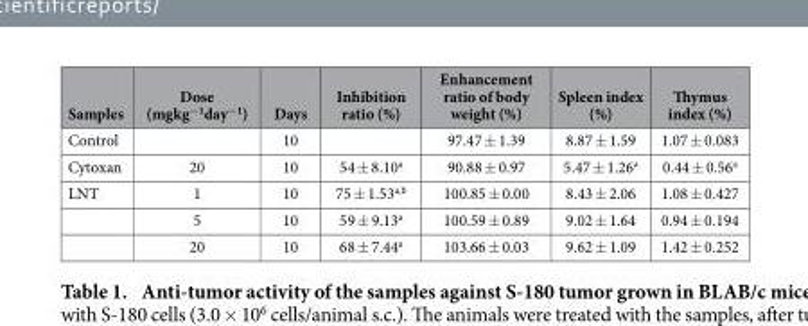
<table><thead><tr><td>Samples</td><td>Dose (mgkg<sup>−1</sup>day<sup>−1</sup>)</td><td>Days</td><td>Inhibition ratio (%)</td><td>Enhancement ratio of body weight (%)</td><td>Spleen index (%)</td><td>Thymus index (%)</td></tr></thead><tbody><tr><td>Control</td><td></td><td>10</td><td></td><td>97.47 ± 1.39</td><td>8.87 ± 1.59</td><td>1.07 ± 0.083</td></tr><tr><td>Cytoxan</td><td>20</td><td>10</td><td>54 ± 8.10<sup>a</sup></td><td>90.88 ± 0.97</td><td>5.47 ± 1.26<sup>a</sup></td><td>0.44 ± 0.56<sup>a</sup></td></tr><tr><td rowspan="3">LNT</td><td>1</td><td>10</td><td>75 ± 1.53a,<sup>b</sup></td><td>100.85 ± 0.00</td><td>8.43 ± 2.06</td><td>1.08 ± 0.427</td></tr><tr><td>5</td><td>10</td><td>59 ± 9.13<sup>a</sup></td><td>100.59 ± 0.89</td><td>9.02 ± 1.64</td><td>0.94 ± 0.194</td></tr><tr><td>20</td><td>10</td><td>68 ± 7.44<sup>a</sup></td><td>103.66 ± 0.03</td><td>9.62 ± 1.09</td><td>1.42 ± 0.252</td></tr></tbody></table>